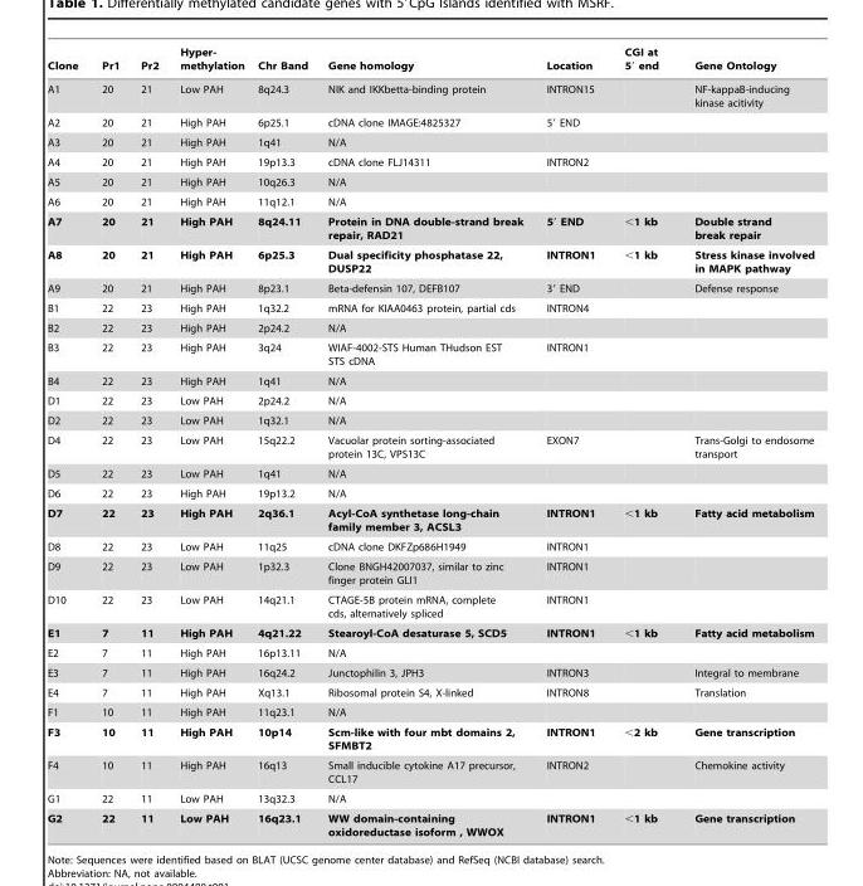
<table><thead><tr><td>Clone</td><td>Pr1</td><td>Pr2</td><td>Hyper- methylation</td><td>Chr Band</td><td>Gene homology</td><td>Location</td><td>CGI at 5′ end</td><td>Gene Ontology</td></tr></thead><tbody><tr><td>A1</td><td>20</td><td>21</td><td>Low PAH</td><td>8q24.3</td><td>NIK and IKKbetta-binding protein</td><td>INTRON15</td><td></td><td>NF-kappaB-inducing kinase acitivity</td></tr><tr><td>A2</td><td>20</td><td>21</td><td>High PAH</td><td>6p25.1</td><td>cDNA clone IMAGE:4825327</td><td>5′ END</td><td></td><td></td></tr><tr><td>A3</td><td>20</td><td>21</td><td>High PAH</td><td>1q41</td><td>N/A</td><td></td><td></td><td></td></tr><tr><td>A4</td><td>20</td><td>21</td><td>High PAH</td><td>19p13.3</td><td>cDNA clone FLJ14311</td><td>INTRON2</td><td></td><td></td></tr><tr><td>A5</td><td>20</td><td>21</td><td>High PAH</td><td>10q26.3</td><td>N/A</td><td></td><td></td><td></td></tr><tr><td>A6</td><td>20</td><td>21</td><td>High PAH</td><td>11q12.1</td><td>N/A</td><td></td><td></td><td></td></tr><tr><td>A7</td><td>20</td><td>21</td><td>High PAH</td><td>8q24.11</td><td>Protein in DNA double-strand break repair, RAD21</td><td>5′ END</td><td>&lt;1 kb</td><td>Double strand break repair</td></tr><tr><td>A8</td><td>20</td><td>21</td><td>High PAH</td><td>6p25.3</td><td>Dual specificity phosphatase 22, DUSP22</td><td>INTRON1</td><td>&lt;1 kb</td><td>Stress kinase involved in MAPK pathway</td></tr><tr><td>A9</td><td>20</td><td>21</td><td>High PAH</td><td>8p23.1</td><td>Beta-defensin 107, DEFB107</td><td>3′ END</td><td></td><td>Defense response</td></tr><tr><td>B1</td><td>22</td><td>23</td><td>High PAH</td><td>1q32.2</td><td>mRNA for KIAA0463 protein, partial cds</td><td>INTRON4</td><td></td><td></td></tr><tr><td>B2</td><td>22</td><td>23</td><td>High PAH</td><td>2p24.2</td><td>N/A</td><td></td><td></td><td></td></tr><tr><td>B3</td><td>22</td><td>23</td><td>High PAH</td><td>3q24</td><td>WIAF-4002-STS Human THudson EST STS cDNA</td><td>INTRON1</td><td></td><td></td></tr><tr><td>B4</td><td>22</td><td>23</td><td>High PAH</td><td>1q41</td><td>N/A</td><td></td><td></td><td></td></tr><tr><td>D1</td><td>22</td><td>23</td><td>Low PAH</td><td>2p24.2</td><td>N/A</td><td></td><td></td><td></td></tr><tr><td>D2</td><td>22</td><td>23</td><td>Low PAH</td><td>1q32.1</td><td>N/A</td><td></td><td></td><td></td></tr><tr><td>D4</td><td>22</td><td>23</td><td>Low PAH</td><td>15q22.2</td><td>Vacuolar protein sorting-associated protein 13C, VPS13C</td><td>EXON7</td><td></td><td>Trans-Golgi to endosome transport</td></tr><tr><td>D5</td><td>22</td><td>23</td><td>Low PAH</td><td>1q41</td><td>N/A</td><td></td><td></td><td></td></tr><tr><td>D6</td><td>22</td><td>23</td><td>High PAH</td><td>19p13.2</td><td>N/A</td><td></td><td></td><td></td></tr><tr><td>D7</td><td>22</td><td>23</td><td>High PAH</td><td>2q36.1</td><td>Acyl-CoA synthetase long-chain family member 3, ACSL3</td><td>INTRON1</td><td>&lt;1 kb</td><td>Fatty acid metabolism</td></tr><tr><td>D8</td><td>22</td><td>23</td><td>Low PAH</td><td>11q25</td><td>cDNA clone DKFZp686H1949</td><td>INTRON1</td><td></td><td></td></tr><tr><td>D9</td><td>22</td><td>23</td><td>Low PAH</td><td>1p32.3</td><td>Clone BNGH42007037, similar to zinc finger protein GLI1</td><td>INTRON1</td><td></td><td></td></tr><tr><td>D10</td><td>22</td><td>23</td><td>Low PAH</td><td>14q21.1</td><td>CTAGE-5B protein mRNA, complete cds, alternatively spliced</td><td>INTRON1</td><td></td><td></td></tr><tr><td>E1</td><td>7</td><td>11</td><td>High PAH</td><td>4q21.22</td><td>Stearoyl-CoA desaturase 5, SCD5</td><td>INTRON1</td><td>&lt;1 kb</td><td>Fatty acid metabolism</td></tr><tr><td>E2</td><td>7</td><td>11</td><td>High PAH</td><td>16p13.11</td><td>N/A</td><td></td><td></td><td></td></tr><tr><td>E3</td><td>7</td><td>11</td><td>High PAH</td><td>16q24.2</td><td>Junctophilin 3, JPH3</td><td>INTRON3</td><td></td><td>Integral to membrane</td></tr><tr><td>E4</td><td>7</td><td>11</td><td>High PAH</td><td>Xq13.1</td><td>Ribosomal protein S4, X-linked</td><td>INTRON8</td><td></td><td>Translation</td></tr><tr><td>F1</td><td>10</td><td>11</td><td>High PAH</td><td>11q23.1</td><td>N/A</td><td></td><td></td><td></td></tr><tr><td>F3</td><td>10</td><td>11</td><td>High PAH</td><td>10p14</td><td>Scm-like with four mbt domains 2, SFMBT2</td><td>INTRON1</td><td>&lt;2 kb</td><td>Gene transcription</td></tr><tr><td>F4</td><td>10</td><td>11</td><td>High PAH</td><td>16q13</td><td>Small inducible cytokine A17 precursor, CCL17</td><td>INTRON2</td><td></td><td>Chemokine activity</td></tr><tr><td>G1</td><td>22</td><td>11</td><td>Low PAH</td><td>13q32.3</td><td>N/A</td><td></td><td></td><td></td></tr><tr><td>G2</td><td>22</td><td>11</td><td>Low PAH</td><td>16q23.1</td><td>WW domain-containing oxidoreductase isoform , WWOX</td><td>INTRON1</td><td>&lt;1 kb</td><td>Gene transcription</td></tr></tbody></table>